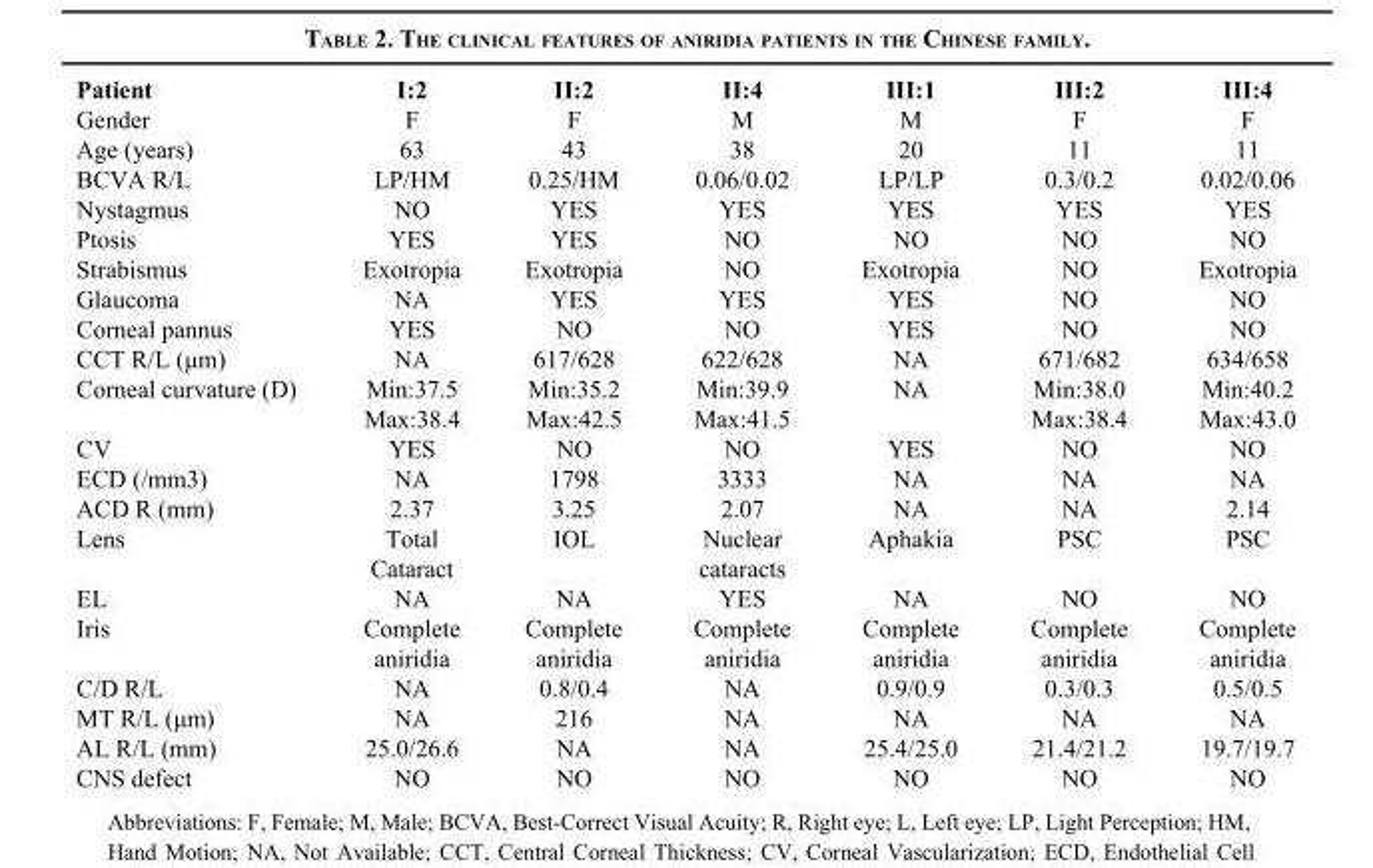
<table><thead><tr><td>Patient</td><td>I:2</td><td>II:2</td><td>II:4</td><td>III:1</td><td>III:2</td><td>III:4</td></tr></thead><tbody><tr><td>Gender</td><td>F</td><td>F</td><td>M</td><td>M</td><td>F</td><td>F</td></tr><tr><td>Age (years)</td><td>63</td><td>43</td><td>38</td><td>20</td><td>11</td><td>11</td></tr><tr><td>BCVA R/L</td><td>LP/HM</td><td>0.25/HM</td><td>0.06/0.02</td><td>LP/LP</td><td>0.3/0.2</td><td>0.02/0.06</td></tr><tr><td>Nystagmus</td><td>NO</td><td>YES</td><td>YES</td><td>YES</td><td>YES</td><td>YES</td></tr><tr><td>Ptosis</td><td>YES</td><td>YES</td><td>NO</td><td>NO</td><td>NO</td><td>NO</td></tr><tr><td>Strabismus</td><td>Exotropia</td><td>Exotropia</td><td>NO</td><td>Exotropia</td><td>NO</td><td>Exotropia</td></tr><tr><td>Glaucoma</td><td>NA</td><td>YES</td><td>YES</td><td>YES</td><td>NO</td><td>NO</td></tr><tr><td>Corneal pannus</td><td>YES</td><td>NO</td><td>NO</td><td>YES</td><td>NO</td><td>NO</td></tr><tr><td>CCT R/L (μm)</td><td>NA</td><td>617/628</td><td>622/628</td><td>NA</td><td>671/682</td><td>634/658</td></tr><tr><td>Corneal curvature (D)</td><td>Min:37.5 Max:38.4</td><td>Min:35.2 Max:42.5</td><td>Min:39.9 Max:41.5</td><td>NA</td><td>Min:38.0 Max:38.4</td><td>Min:40.2 Max:43.0</td></tr><tr><td>CV</td><td>YES</td><td>NO</td><td>NO</td><td>YES</td><td>NO</td><td>NO</td></tr><tr><td>ECD (/mm3)</td><td>NA</td><td>1798</td><td>3333</td><td>NA</td><td>NA</td><td>NA</td></tr><tr><td>ACD R (mm)</td><td>2.37</td><td>3.25</td><td>2.07</td><td>NA</td><td>NA</td><td>2.14</td></tr><tr><td>Lens</td><td>Total Cataract</td><td>IOL</td><td>Nuclear cataracts</td><td>Aphakia</td><td>PSC</td><td>PSC</td></tr><tr><td>EL</td><td>NA</td><td>NA</td><td>YES</td><td>NA</td><td>NO</td><td>NO</td></tr><tr><td>Iris</td><td>Complete aniridia</td><td>Complete aniridia</td><td>Complete aniridia</td><td>Complete aniridia</td><td>Complete aniridia</td><td>Complete aniridia</td></tr><tr><td>C/D R/L</td><td>NA</td><td>0.8/0.4</td><td>NA</td><td>0.9/0.9</td><td>0.3/0.3</td><td>0.5/0.5</td></tr><tr><td>MT R/L (μm)</td><td>NA</td><td>216</td><td>NA</td><td>NA</td><td>NA</td><td>NA</td></tr><tr><td>AL R/L (mm)</td><td>25.0/26.6</td><td>NA</td><td>NA</td><td>25.4/25.0</td><td>21.4/21.2</td><td>19.7/19.7</td></tr><tr><td>CNS defect</td><td>NO</td><td>NO</td><td>NO</td><td>NO</td><td>NO</td><td>NO</td></tr></tbody></table>